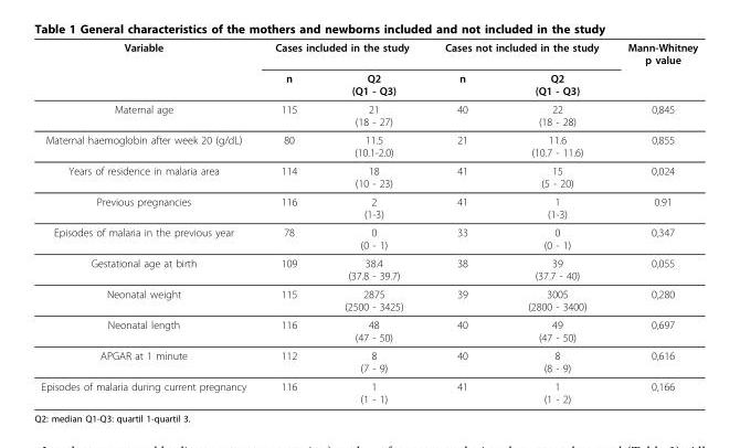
<table><thead><tr><td rowspan="2">Variable</td><td colspan="2">Cases included in the study</td><td colspan="2">Cases not included in the study</td><td rowspan="2">Mann-Whitney p value</td></tr><tr><td>n</td><td>Q2 (Q1 - Q3)</td><td>n</td><td>Q2 (Q1 - Q3)</td></tr></thead><tbody><tr><td>Maternal age</td><td>115</td><td>21 (18 - 27)</td><td>40</td><td>22 (18 - 28)</td><td>0,845</td></tr><tr><td>Maternal haemoglobin after week 20 (g/dL)</td><td>80</td><td>11.5 (10.1-2.0)</td><td>21</td><td>11.6 (10.7 - 11.6)</td><td>0,855</td></tr><tr><td>Years of residence in malaria area</td><td>114</td><td>18 (10 - 23)</td><td>41</td><td>15 (5 - 20)</td><td>0,024</td></tr><tr><td>Previous pregnancies</td><td>116</td><td>2 (1-3)</td><td>41</td><td>1 (1-3)</td><td>0.91</td></tr><tr><td>Episodes of malaria in the previous year</td><td>78</td><td>0 (0 - 1)</td><td>33</td><td>0 (0 - 1)</td><td>0,347</td></tr><tr><td>Gestational age at birth</td><td>109</td><td>38.4 (37.8 - 39.7)</td><td>38</td><td>39 (37.7 - 40)</td><td>0,055</td></tr><tr><td>Neonatal weight</td><td>115</td><td>2875 (2500 - 3425)</td><td>39</td><td>3005 (2800 - 3400)</td><td>0,280</td></tr><tr><td>Neonatal length</td><td>116</td><td>48 (47 - 50)</td><td>40</td><td>49 (47 - 50)</td><td>0,697</td></tr><tr><td>APGAR at 1 minute</td><td>112</td><td>8 (7 - 9)</td><td>40</td><td>8 (8 - 9)</td><td>0,616</td></tr><tr><td>Episodes of malaria during current pregnancy</td><td>116</td><td>1 (1 - 1)</td><td>41</td><td>1 (1 - 2)</td><td>0,166</td></tr></tbody></table>